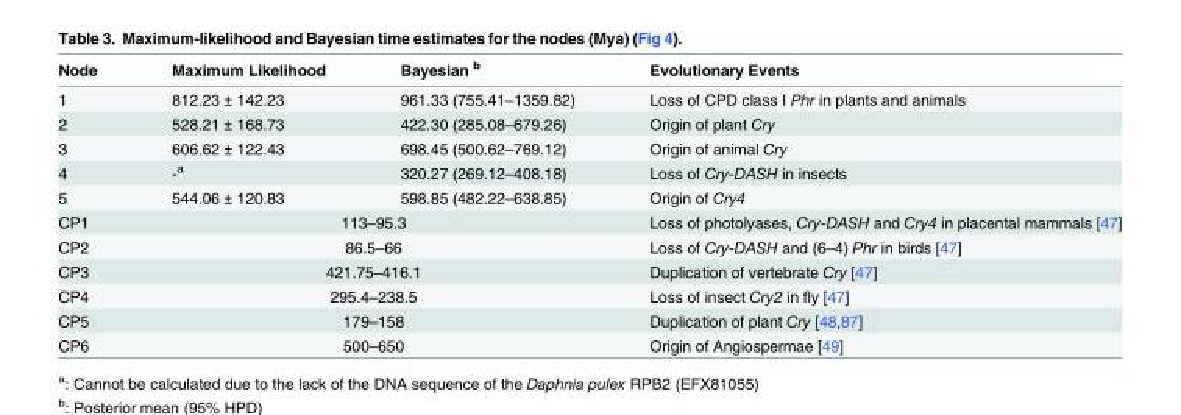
<table><thead><tr><td>Node</td><td>Maximum Likelihood</td><td>Bayesian <sup>b</sup></td><td>Evolutionary Events</td></tr></thead><tbody><tr><td>1</td><td>812.23 ± 142.23</td><td>961.33 (755.41–1359.82)</td><td>Loss of CPD class I Phr in plants and animals</td></tr><tr><td>2</td><td>528.21 ± 168.73</td><td>422.30 (285.08–679.26)</td><td>Origin of plant Cry</td></tr><tr><td>3</td><td>606.62 ± 122.43</td><td>698.45 (500.62–769.12)</td><td>Origin of animal Cry</td></tr><tr><td>4</td><td>-<sup>a</sup></td><td>320.27 (269.12–408.18)</td><td>Loss of Cry-DASH in insects</td></tr><tr><td>5</td><td>544.06 ± 120.83</td><td>598.85 (482.22–638.85)</td><td>Origin of Cry4</td></tr><tr><td>CP1</td><td colspan="2">113–95.3</td><td>Loss of photolyases, Cry-DASH and Cry4 in placental mammals [47]</td></tr><tr><td>CP2</td><td colspan="2">86.5–66</td><td>Loss of Cry-DASH and (6–4) Phr in birds [47]</td></tr><tr><td>CP3</td><td colspan="2">421.75–416.1</td><td>Duplication of vertebrate Cry [47]</td></tr><tr><td>CP4</td><td colspan="2">295.4–238.5</td><td>Loss of insect Cry2 in fly [47]</td></tr><tr><td>CP5</td><td colspan="2">179–158</td><td>Duplication of plant Cry [48,87]</td></tr><tr><td>CP6</td><td colspan="2">500–650</td><td>Origin of Angiospermae [49]</td></tr></tbody></table>